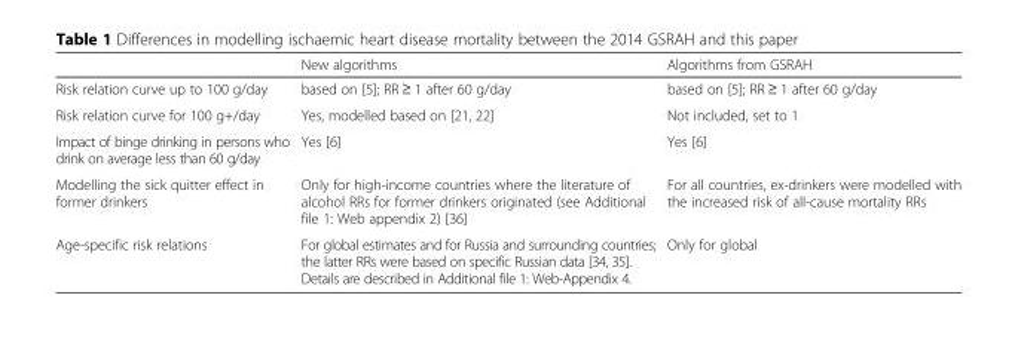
<table><thead><tr><td></td><td>New algorithms</td><td>Algorithms from GSRAH</td></tr></thead><tbody><tr><td>Risk relation curve up to 100 g/day</td><td>based on [5]; RR ≥ 1 after 60 g/day</td><td>based on [5]; RR ≥ 1 after 60 g/day</td></tr><tr><td>Risk relation curve for 100 g+/day</td><td>Yes, modelled based on [21, 22]</td><td>Not included, set to 1</td></tr><tr><td>Impact of binge drinking in persons who drink on average less than 60 g/day</td><td>Yes [6]</td><td>Yes [6]</td></tr><tr><td>Modelling the sick quitter effect in former drinkers</td><td>Only for high-income countries where the literature of alcohol RRs for former drinkers originated (see Additional file 1: Web appendix 2) [36]</td><td>For all countries, ex-drinkers were modelled with the increased risk of all-cause mortality RRs</td></tr><tr><td>Age-specific risk relations</td><td>For global estimates and for Russia and surrounding countries; the latter RRs were based on specific Russian data [34, 35]. Details are described in Additional file 1: Web-Appendix 4.</td><td>Only for global</td></tr></tbody></table>